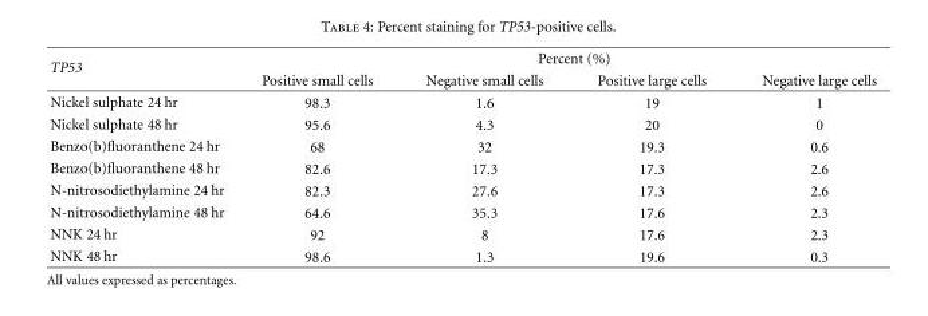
<table><thead><tr><td rowspan="2">TP53</td><td colspan="4">Percent (%)</td></tr><tr><td>Positive small cells</td><td>Negative small cells</td><td>Positive large cells</td><td>Negative large cells</td></tr></thead><tbody><tr><td>Nickel sulphate 24 hr</td><td>98.3</td><td>1.6</td><td>19</td><td>1</td></tr><tr><td>Nickel sulphate 48 hr</td><td>95.6</td><td>4.3</td><td>20</td><td>0</td></tr><tr><td>Benzo(b)fluoranthene 24 hr</td><td>68</td><td>32</td><td>19.3</td><td>0.6</td></tr><tr><td>Benzo(b)fluoranthene 48 hr</td><td>82.6</td><td>17.3</td><td>17.3</td><td>2.6</td></tr><tr><td>N-nitrosodiethylamine 24 hr</td><td>82.3</td><td>27.6</td><td>17.3</td><td>2.6</td></tr><tr><td>N-nitrosodiethylamine 48 hr</td><td>64.6</td><td>35.3</td><td>17.6</td><td>2.3</td></tr><tr><td>NNK 24 hr</td><td>92</td><td>8</td><td>17.6</td><td>2.3</td></tr><tr><td>NNK 48 hr</td><td>98.6</td><td>1.3</td><td>19.6</td><td>0.3</td></tr></tbody></table>